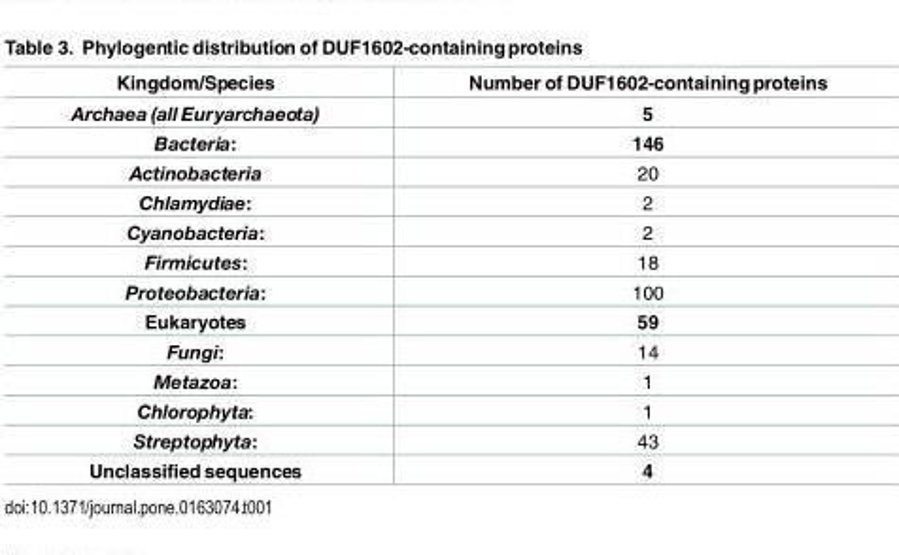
<table><thead><tr><td>Kingdom/Species</td><td>Number of DUF1602-containingproteins</td></tr></thead><tbody><tr><td>Archaea (all Euryarchaeota)</td><td>5</td></tr><tr><td>Bacteria:</td><td>146</td></tr><tr><td>Actinobacteria</td><td>20</td></tr><tr><td>Chlamydiae:</td><td>2</td></tr><tr><td>Cyanobacteria:</td><td>2</td></tr><tr><td>Firmicutes:</td><td>18</td></tr><tr><td>Proteobacteria:</td><td>100</td></tr><tr><td>Eukaryotes</td><td>59</td></tr><tr><td>Fungi:</td><td>14</td></tr><tr><td>Metazoa:</td><td>1</td></tr><tr><td>Chlorophyta:</td><td>1</td></tr><tr><td>Streptophyta:</td><td>43</td></tr><tr><td>Unclassified sequences</td><td>4</td></tr></tbody></table>